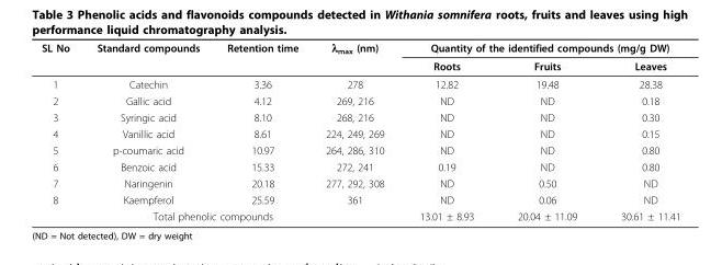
<table><thead><tr><td rowspan="2">SL No</td><td rowspan="2">Standard compounds</td><td rowspan="2">Retention time</td><td rowspan="2">λ<sub>max</sub> (nm)</td><td colspan="3">Quantity of the identified compounds (mg/g DW)</td></tr><tr><td>Roots</td><td>Fruits</td><td>Leaves</td></tr></thead><tbody><tr><td>1</td><td>Catechin</td><td>3.36</td><td>278</td><td>12.82</td><td>19.48</td><td>28.38</td></tr><tr><td>2</td><td>Gallic acid</td><td>4.12</td><td>269, 216</td><td>ND</td><td>ND</td><td>0.18</td></tr><tr><td>3</td><td>Syringic acid</td><td>8.10</td><td>268, 216</td><td>ND</td><td>ND</td><td>0.30</td></tr><tr><td>4</td><td>Vanillic acid</td><td>8.61</td><td>224, 249, 269</td><td>ND</td><td>ND</td><td>0.15</td></tr><tr><td>5</td><td>p-coumaric acid</td><td>10.97</td><td>264, 286, 310</td><td>ND</td><td>ND</td><td>0.80</td></tr><tr><td>6</td><td>Benzoic acid</td><td>15.33</td><td>272, 241</td><td>0.19</td><td>ND</td><td>0.80</td></tr><tr><td>7</td><td>Naringenin</td><td>20.18</td><td>277, 292, 308</td><td>ND</td><td>0.50</td><td>ND</td></tr><tr><td>8</td><td>Kaempferol</td><td>25.59</td><td>361</td><td>ND</td><td>0.06</td><td>ND</td></tr><tr><td colspan="4">Total phenolic compounds</td><td>13.01 ± 8.93</td><td>20.04 ± 11.09</td><td>30.61 ± 11.41</td></tr></tbody></table>